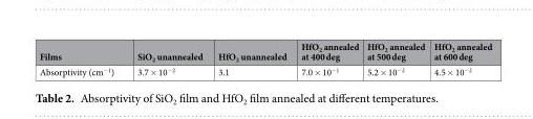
<table><thead><tr><td>Films</td><td>SiO<sub>2</sub> unannealed</td><td>HfO<sub>2</sub> unannealed</td><td>HfO<sub>2</sub> annealed at 400 deg</td><td>HfO<sub>2</sub> annealed at 500 deg</td><td>HfO<sub>2</sub> annealed at 600 deg</td></tr></thead><tbody><tr><td>Absorptivity (cm<sup>−1</sup>)</td><td>3.7 × 10<sup>−2</sup></td><td>3.1</td><td>7.0 × 10<sup>−1</sup></td><td>5.2 × 10<sup>−2</sup></td><td>4.5 × 10<sup>−2</sup></td></tr></tbody></table>